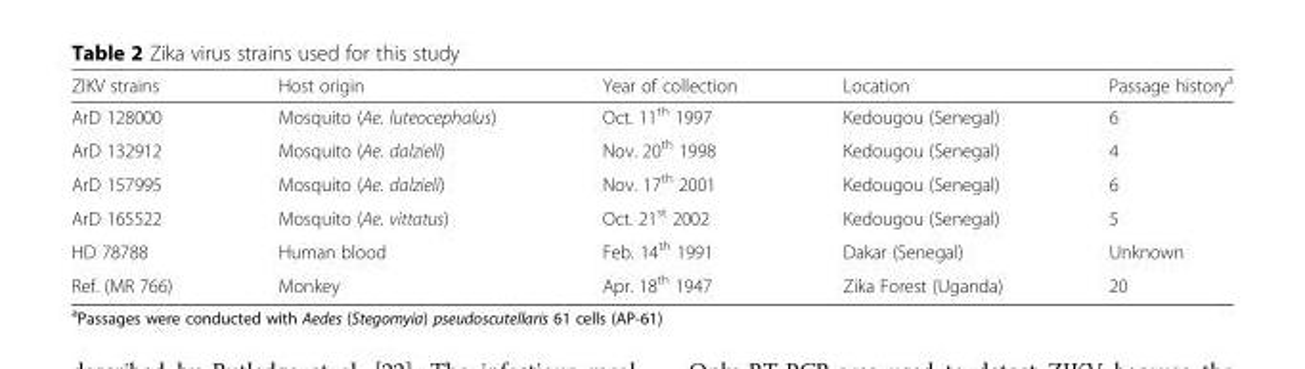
<table><thead><tr><td>ZIKV strains</td><td>Host origin</td><td>Year of collection</td><td>Location</td><td>Passage history<sup>a</sup></td></tr></thead><tbody><tr><td>ArD 128000</td><td>Mosquito (Ae. luteocephalus)</td><td>Oct. 11<sup>th</sup> 1997</td><td>Kedougou (Senegal)</td><td>6</td></tr><tr><td>ArD 132912</td><td>Mosquito (Ae. dalzieli)</td><td>Nov. 20<sup>th</sup> 1998</td><td>Kedougou (Senegal)</td><td>4</td></tr><tr><td>ArD 157995</td><td>Mosquito (Ae. dalzieli)</td><td>Nov. 17<sup>th</sup> 2001</td><td>Kedougou (Senegal)</td><td>6</td></tr><tr><td>ArD 165522</td><td>Mosquito (Ae. vittatus)</td><td>Oct. 21<sup>st</sup> 2002</td><td>Kedougou (Senegal)</td><td>5</td></tr><tr><td>HD 78788</td><td>Human blood</td><td>Feb. 14<sup>th</sup> 1991</td><td>Dakar (Senegal)</td><td>Unknown</td></tr><tr><td>Ref. (MR 766)</td><td>Monkey</td><td>Apr. 18<sup>th</sup> 1947</td><td>Zika Forest (Uganda)</td><td>20</td></tr></tbody></table>